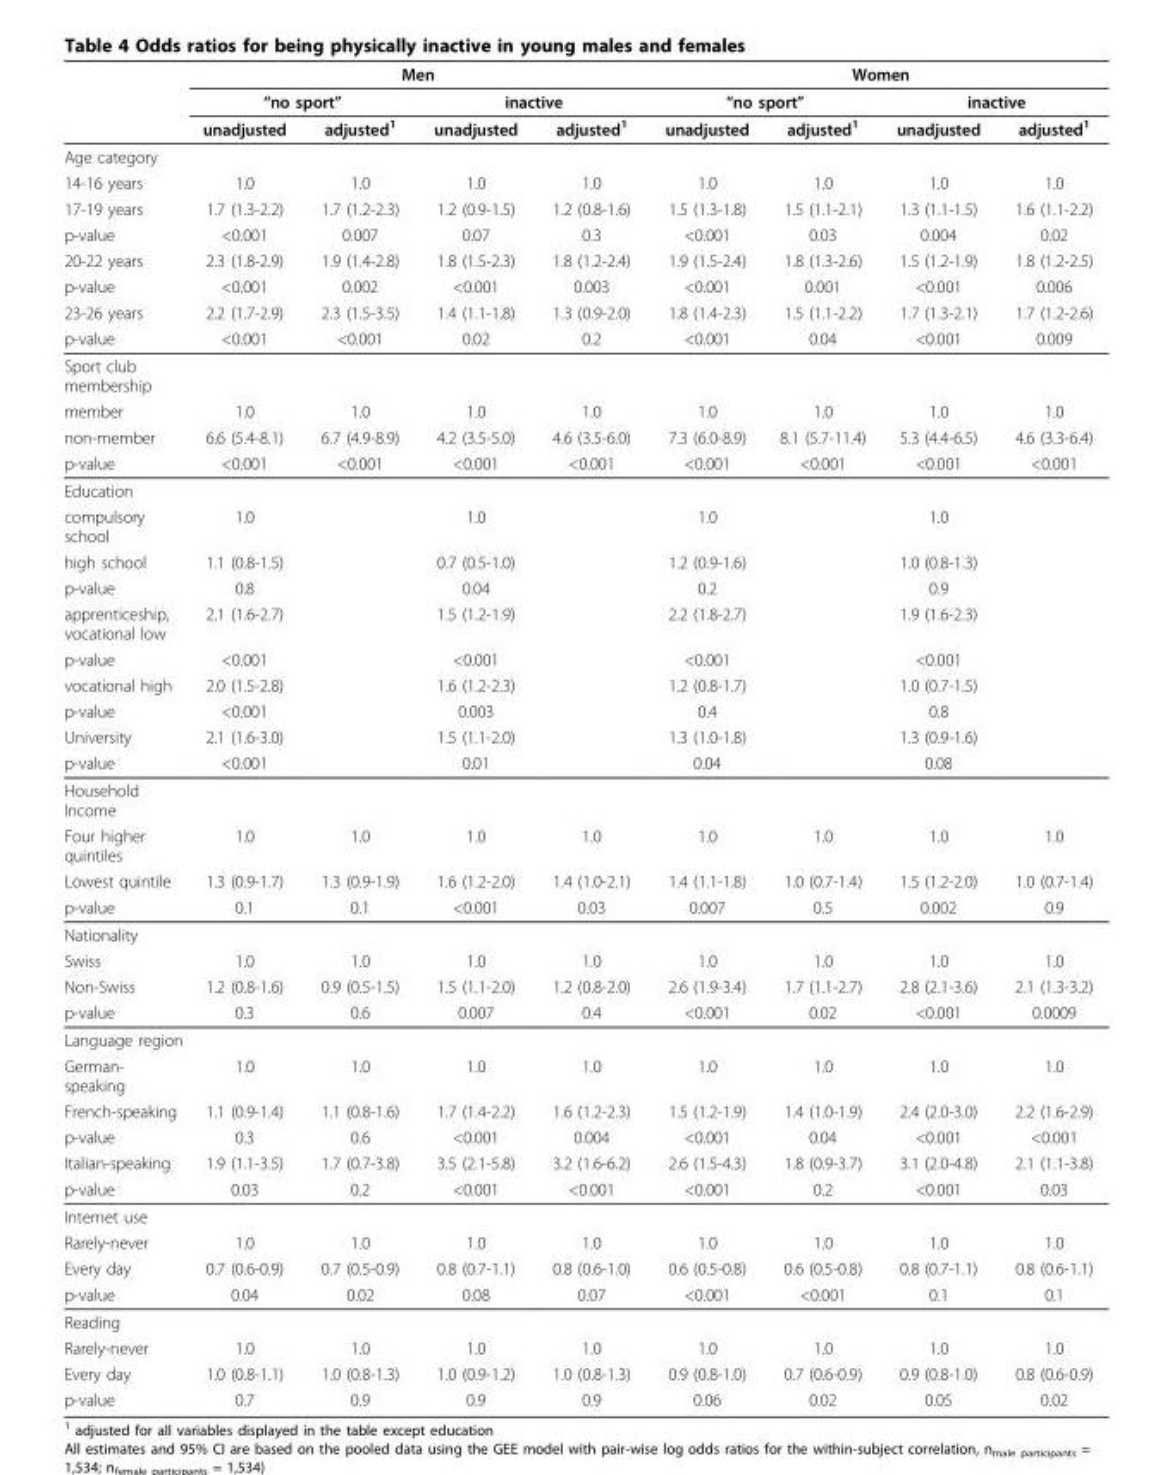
<table><thead><tr><td rowspan="3"></td><td colspan="4">Men</td><td colspan="4">Women</td></tr><tr><td colspan="2">“no sport”</td><td colspan="2">inactive</td><td colspan="2">“no sport”</td><td colspan="2">inactive</td></tr><tr><td>unadjusted</td><td>adjusted<sup>1</sup></td><td>unadjusted</td><td>adjusted<sup>1</sup></td><td>unadjusted</td><td>adjusted<sup>1</sup></td><td>unadjusted</td><td>adjusted<sup>1</sup></td></tr></thead><tbody><tr><td colspan="9">Age category</td></tr><tr><td>14-16 years</td><td>1.0</td><td>1.0</td><td>1.0</td><td>1.0</td><td>1.0</td><td>1.0</td><td>1.0</td><td>1.0</td></tr><tr><td>17-19 years</td><td>1.7 (1.3-2.2)</td><td>1.7 (1.2-2.3)</td><td>1.2 (0.9-1.5)</td><td>1.2 (0.8-1.6)</td><td>1.5 (1.3-1.8)</td><td>1.5 (1.1-2.1)</td><td>1.3 (1.1-1.5)</td><td>1.6 (1.1-2.2)</td></tr><tr><td>p-value</td><td>&lt;0.001</td><td>0.007</td><td>0.07</td><td>0.3</td><td>&lt;0.001</td><td>0.03</td><td>0.004</td><td>0.02</td></tr><tr><td>20-22 years</td><td>2.3 (1.8-2.9)</td><td>1.9 (1.4-2.8)</td><td>1.8 (1.5-2.3)</td><td>1.8 (1.2-2.4)</td><td>1.9 (1.5-2.4)</td><td>1.8 (1.3-2.6)</td><td>1.5 (1.2-1.9)</td><td>1.8 (1.2-2.5)</td></tr><tr><td>p-value</td><td>&lt;0.001</td><td>0.002</td><td>&lt;0.001</td><td>0.003</td><td>&lt;0.001</td><td>0.001</td><td>&lt;0.001</td><td>0.006</td></tr><tr><td>23-26 years</td><td>2.2 (1.7-2.9)</td><td>2.3 (1.5-3.5)</td><td>1.4 (1.1-1.8)</td><td>1.3 (0.9-2.0)</td><td>1.8 (1.4-2.3)</td><td>1.5 (1.1-2.2)</td><td>1.7 (1.3-2.1)</td><td>1.7 (1.2-2.6)</td></tr><tr><td>p-value</td><td>&lt;0.001</td><td>&lt;0.001</td><td>0.02</td><td>0.2</td><td>&lt;0.001</td><td>0.04</td><td>&lt;0.001</td><td>0.009</td></tr><tr><td colspan="9">Sport club membership</td></tr><tr><td>member</td><td>1.0</td><td>1.0</td><td>1.0</td><td>1.0</td><td>1.0</td><td>1.0</td><td>1.0</td><td>1.0</td></tr><tr><td>non-member</td><td>6.6 (5.4-8.1)</td><td>6.7 (4.9-8.9)</td><td>4.2 (3.5-5.0)</td><td>4.6 (3.5-6.0)</td><td>7.3 (6.0-8.9)</td><td>8.1 (5.7-11.4)</td><td>5.3 (4.4-6.5)</td><td>4.6 (3.3-6.4)</td></tr><tr><td>p-value</td><td>&lt;0.001</td><td>&lt;0.001</td><td>&lt;0.001</td><td>&lt;0.001</td><td>&lt;0.001</td><td>&lt;0.001</td><td>&lt;0.001</td><td>&lt;0.001</td></tr><tr><td colspan="9">Education</td></tr><tr><td>compulsory school</td><td>1.0</td><td></td><td>1.0</td><td></td><td>1.0</td><td></td><td>1.0</td><td></td></tr><tr><td>high school</td><td>1.1 (0.8-1.5)</td><td></td><td>0.7 (0.5-1.0)</td><td></td><td>1.2 (0.9-1.6)</td><td></td><td>1.0 (0.8-1.3)</td><td></td></tr><tr><td>p-value</td><td>0.8</td><td></td><td>0.04</td><td></td><td>0.2</td><td></td><td>0.9</td><td></td></tr><tr><td>apprenticeship, vocational low</td><td>2.1 (1.6-2.7)</td><td></td><td>1.5 (1.2-1.9)</td><td></td><td>2.2 (1.8-2.7)</td><td></td><td>1.9 (1.6-2.3)</td><td></td></tr><tr><td>p-value</td><td>&lt;0.001</td><td></td><td>&lt;0.001</td><td></td><td>&lt;0.001</td><td></td><td>&lt;0.001</td><td></td></tr><tr><td>vocational high</td><td>2.0 (1.5-2.8)</td><td></td><td>1.6 (1.2-2.3)</td><td></td><td>1.2 (0.8-1.7)</td><td></td><td>1.0 (0.7-1.5)</td><td></td></tr><tr><td>p-value</td><td>&lt;0.001</td><td></td><td>0.003</td><td></td><td>0.4</td><td></td><td>0.8</td><td></td></tr><tr><td>University</td><td>2.1 (1.6-3.0)</td><td></td><td>1.5 (1.1-2.0)</td><td></td><td>1.3 (1.0-1.8)</td><td></td><td>1.3 (0.9-1.6)</td><td></td></tr><tr><td>p-value</td><td>&lt;0.001</td><td></td><td>0.01</td><td></td><td>0.04</td><td></td><td>0.08</td><td></td></tr><tr><td colspan="9">Household Income</td></tr><tr><td>Four higher quintiles</td><td>1.0</td><td>1.0</td><td>1.0</td><td>1.0</td><td>1.0</td><td>1.0</td><td>1.0</td><td>1.0</td></tr><tr><td>Lowest quintile</td><td>1.3 (0.9-1.7)</td><td>1.3 (0.9-1.9)</td><td>1.6 (1.2-2.0)</td><td>1.4 (1.0-2.1)</td><td>1.4 (1.1-1.8)</td><td>1.0 (0.7-1.4)</td><td>1.5 (1.2-2.0)</td><td>1.0 (0.7-1.4)</td></tr><tr><td>p-value</td><td>0.1</td><td>0.1</td><td>&lt;0.001</td><td>0.03</td><td>0.007</td><td>0.5</td><td>0.002</td><td>0.9</td></tr><tr><td colspan="9">Nationality</td></tr><tr><td>Swiss</td><td>1.0</td><td>1.0</td><td>1.0</td><td>1.0</td><td>1.0</td><td>1.0</td><td>1.0</td><td>1.0</td></tr><tr><td>Non-Swiss</td><td>1.2 (0.8-1.6)</td><td>0.9 (0.5-1.5)</td><td>1.5 (1.1-2.0)</td><td>1.2 (0.8-2.0)</td><td>2.6 (1.9-3.4)</td><td>1.7 (1.1-2.7)</td><td>2.8 (2.1-3.6)</td><td>2.1 (1.3-3.2)</td></tr><tr><td>p-value</td><td>0.3</td><td>0.6</td><td>0.007</td><td>0.4</td><td>&lt;0.001</td><td>0.02</td><td>&lt;0.001</td><td>0.0009</td></tr><tr><td colspan="9">Language region</td></tr><tr><td>German- speaking</td><td>1.0</td><td>1.0</td><td>1.0</td><td>1.0</td><td>1.0</td><td>1.0</td><td>1.0</td><td>1.0</td></tr><tr><td>French-speaking</td><td>1.1 (0.9-1.4)</td><td>1.1 (0.8-1.6)</td><td>1.7 (1.4-2.2)</td><td>1.6 (1.2-2.3)</td><td>1.5 (1.2-1.9)</td><td>1.4 (1.0-1.9)</td><td>2.4 (2.0-3.0)</td><td>2.2 (1.6-2.9)</td></tr><tr><td>p-value</td><td>0.3</td><td>0.6</td><td>&lt;0.001</td><td>0.004</td><td>&lt;0.001</td><td>0.04</td><td>&lt;0.001</td><td>&lt;0.001</td></tr><tr><td>Italian-speaking</td><td>1.9 (1.1-3.5)</td><td>1.7 (0.7-3.8)</td><td>3.5 (2.1-5.8)</td><td>3.2 (1.6-6.2)</td><td>2.6 (1.5-4.3)</td><td>1.8 (0.9-3.7)</td><td>3.1 (2.0-4.8)</td><td>2.1 (1.1-3.8)</td></tr><tr><td>p-value</td><td>0.03</td><td>0.2</td><td>&lt;0.001</td><td>&lt;0.001</td><td>&lt;0.001</td><td>0.2</td><td>&lt;0.001</td><td>0.03</td></tr><tr><td colspan="9">Internet use</td></tr><tr><td>Rarely-never</td><td>1.0</td><td>1.0</td><td>1.0</td><td>1.0</td><td>1.0</td><td>1.0</td><td>1.0</td><td>1.0</td></tr><tr><td>Every day</td><td>0.7 (0.6-0.9)</td><td>0.7 (0.5-0.9)</td><td>0.8 (0.7-1.1)</td><td>0.8 (0.6-1.0)</td><td>0.6 (0.5-0.8)</td><td>0.6 (0.5-0.8)</td><td>0.8 (0.7-1.1)</td><td>0.8 (0.6-1.1)</td></tr><tr><td>p-value</td><td>0.04</td><td>0.02</td><td>0.08</td><td>0.07</td><td>&lt;0.001</td><td>&lt;0.001</td><td>0.1</td><td>0.1</td></tr><tr><td colspan="9">Reading</td></tr><tr><td>Rarely-never</td><td>1.0</td><td>1.0</td><td>1.0</td><td>1.0</td><td>1.0</td><td>1.0</td><td>1.0</td><td>1.0</td></tr><tr><td>Every day</td><td>1.0 (0.8-1.1)</td><td>1.0 (0.8-1.3)</td><td>1.0 (0.9-1.2)</td><td>1.0 (0.8-1.3)</td><td>0.9 (0.8-1.0)</td><td>0.7 (0.6-0.9)</td><td>0.9 (0.8-1.0)</td><td>0.8 (0.6-0.9)</td></tr><tr><td>p-value</td><td>0.7</td><td>0.9</td><td>0.9</td><td>0.9</td><td>0.06</td><td>0.02</td><td>0.05</td><td>0.02</td></tr></tbody></table>